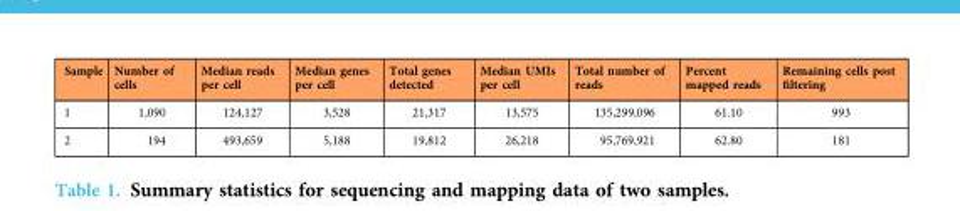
<table><thead><tr><td>Sample</td><td>Number of cells</td><td>Median reads per cell</td><td>Median genes per cell</td><td>Total genes detected</td><td>Median UMIs per cell</td><td>Total number of reads</td><td>Percent mapped reads</td><td>Remaining cells post filtering</td></tr></thead><tbody><tr><td>1</td><td>1,090</td><td>124,127</td><td>3,528</td><td>21,317</td><td>13,575</td><td>135,299,096</td><td>61.10</td><td>993</td></tr><tr><td>2</td><td>194</td><td>493,659</td><td>5,188</td><td>19,812</td><td>26,218</td><td>95,769,921</td><td>62.80</td><td>181</td></tr></tbody></table>